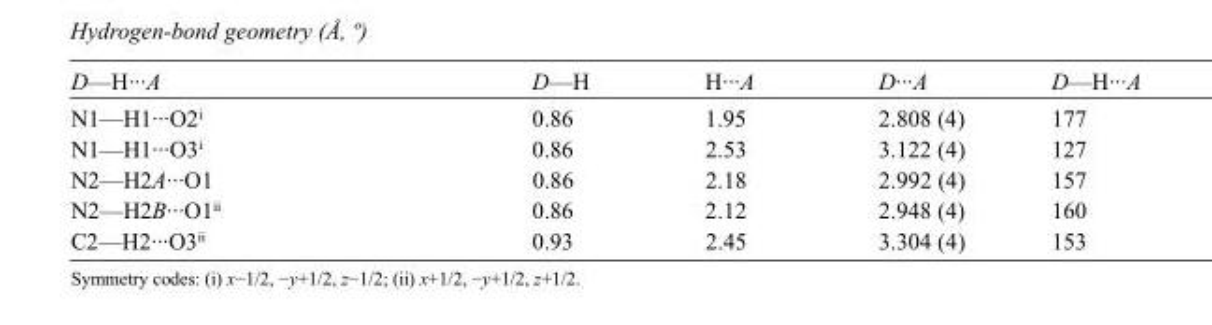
<table><tbody><tr><td>D—H···A</td><td>D—H</td><td>H···A</td><td>D···A</td><td>D—H···A</td></tr><tr><td>N1—H1···O2<sup>i</sup></td><td>0.86</td><td>1.95</td><td>2.808 (4)</td><td>177</td></tr><tr><td>N1—H1···O3<sup>i</sup></td><td>0.86</td><td>2.53</td><td>3.122 (4)</td><td>127</td></tr><tr><td>N2—H2A···O1</td><td>0.86</td><td>2.18</td><td>2.992 (4)</td><td>157</td></tr><tr><td>N2—H2B···O1<sup>ii</sup></td><td>0.86</td><td>2.12</td><td>2.948 (4)</td><td>160</td></tr><tr><td>C2—H2···O3<sup>ii</sup></td><td>0.93</td><td>2.45</td><td>3.304 (4)</td><td>153</td></tr></tbody></table>